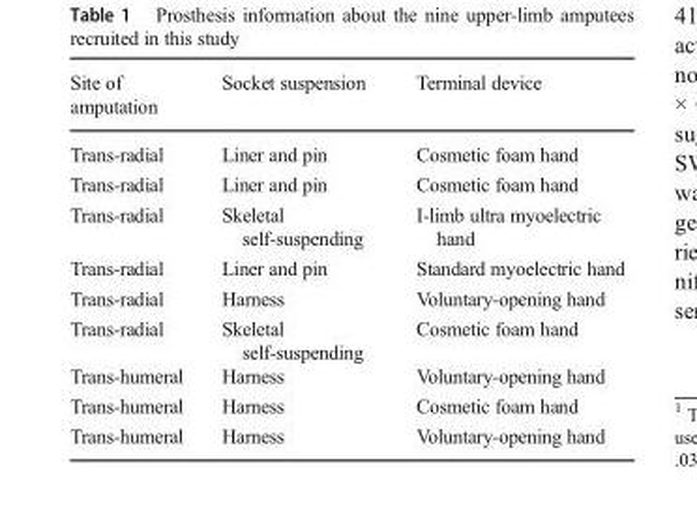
<table><thead><tr><td>Site of amputation</td><td>Socket suspension</td><td>Terminal device</td></tr></thead><tbody><tr><td>Trans-radial</td><td>Liner and pin</td><td>Cosmetic foam hand</td></tr><tr><td>Trans-radial</td><td>Liner and pin</td><td>Cosmetic foam hand</td></tr><tr><td>Trans-radial</td><td>Skeletal self-suspending</td><td>I-limb ultra myoelectric hand</td></tr><tr><td>Trans-radial</td><td>Liner and pin</td><td>Standard myoelectric hand</td></tr><tr><td>Trans-radial</td><td>Harness</td><td>Voluntary-opening hand</td></tr><tr><td>Trans-radial</td><td>Skeletal self-suspending</td><td>Cosmetic foam hand</td></tr><tr><td>Trans-humeral</td><td>Harness</td><td>Voluntary-opening hand</td></tr><tr><td>Trans-humeral</td><td>Harness</td><td>Cosmetic foam hand</td></tr><tr><td>Trans-humeral</td><td>Harness</td><td>Voluntary-opening hand</td></tr></tbody></table>